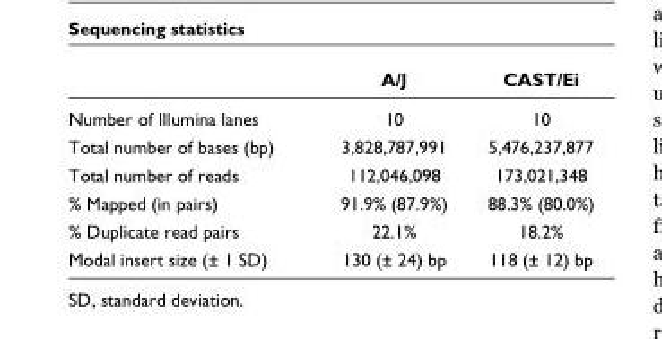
<table><thead><tr><td></td><td>A/J</td><td>CAST/Ei</td></tr></thead><tbody><tr><td>Number of Illumina lanes</td><td>10</td><td>10</td></tr><tr><td>Total number of bases (bp)</td><td>3,828,787,991</td><td>5,476,237,877</td></tr><tr><td>Total number of reads</td><td>112,046,098</td><td>173,021,348</td></tr><tr><td>% Mapped (in pairs)</td><td>91.9% (87.9%)</td><td>88.3% (80.0%)</td></tr><tr><td>% Duplicate read pairs</td><td>22.1%</td><td>18.2%</td></tr><tr><td>Modal insert size (± 1 SD)</td><td>130 (± 24) bp</td><td>118 (± 12) bp</td></tr></tbody></table>